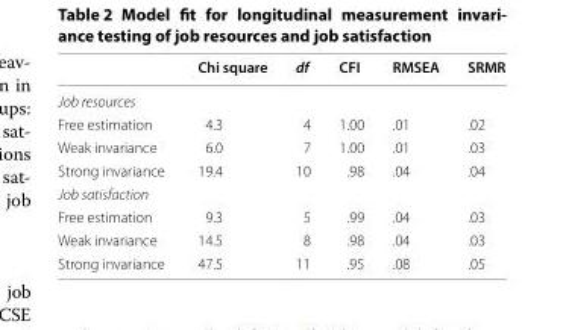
<table><thead><tr><td></td><td>Chi square</td><td>df</td><td>CFI</td><td>RMSEA</td><td>SRMR</td></tr></thead><tbody><tr><td colspan="6">Job resources</td></tr><tr><td>Free estimation</td><td>4.3</td><td>4</td><td>1.00</td><td>.01</td><td>.02</td></tr><tr><td>Weak invariance</td><td>6.0</td><td>7</td><td>1.00</td><td>.01</td><td>.03</td></tr><tr><td>Strong invariance</td><td>19.4</td><td>10</td><td>.98</td><td>.04</td><td>.04</td></tr><tr><td colspan="6">Job satisfaction</td></tr><tr><td>Free estimation</td><td>9.3</td><td>5</td><td>.99</td><td>.04</td><td>.03</td></tr><tr><td>Weak invariance</td><td>14.5</td><td>8</td><td>.98</td><td>.04</td><td>.03</td></tr><tr><td>Strong invariance</td><td>47.5</td><td>11</td><td>.95</td><td>.08</td><td>.05</td></tr></tbody></table>